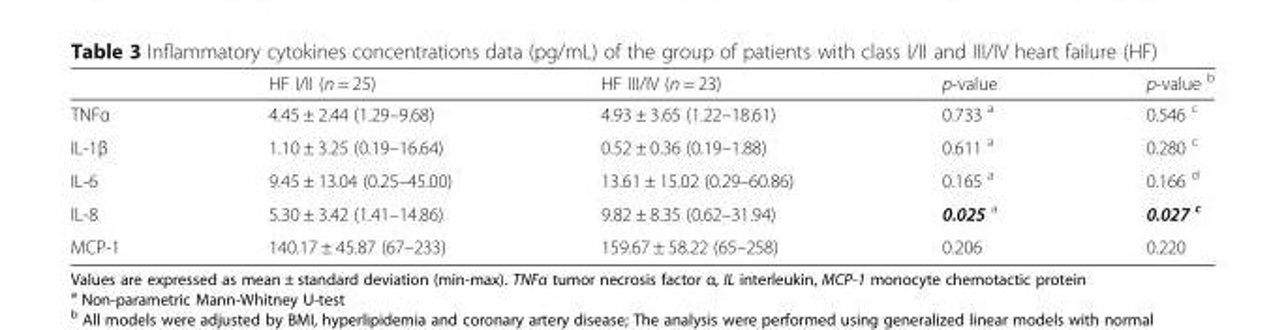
<table><thead><tr><td></td><td>HF I/II (n = 25)</td><td>HF III/IV (n = 23)</td><td>p-value</td><td>p-value <sup>b</sup></td></tr></thead><tbody><tr><td>TNFα</td><td>4.45 ± 2.44 (1.29–9.68)</td><td>4.93 ± 3.65 (1.22–18.61)</td><td>0.733 <sup>a</sup></td><td>0.546 <sup>c</sup></td></tr><tr><td>IL-1β</td><td>1.10 ± 3.25 (0.19–16.64)</td><td>0.52 ± 0.36 (0.19–1.88)</td><td>0.611 <sup>a</sup></td><td>0.280 <sup>c</sup></td></tr><tr><td>IL-6</td><td>9.45 ± 13.04 (0.25–45.00)</td><td>13.61 ± 15.02 (0.29–60.86)</td><td>0.165 <sup>a</sup></td><td>0.166 <sup>d</sup></td></tr><tr><td>IL-8</td><td>5.30 ± 3.42 (1.41–14.86)</td><td>9.82 ± 8.35 (0.62–31.94)</td><td>0.025 <sup>a</sup></td><td>0.027 <sup>c</sup></td></tr><tr><td>MCP-1</td><td>140.17 ± 45.87 (67–233)</td><td>159.67 ± 58.22 (65–258)</td><td>0.206</td><td>0.220</td></tr></tbody></table>